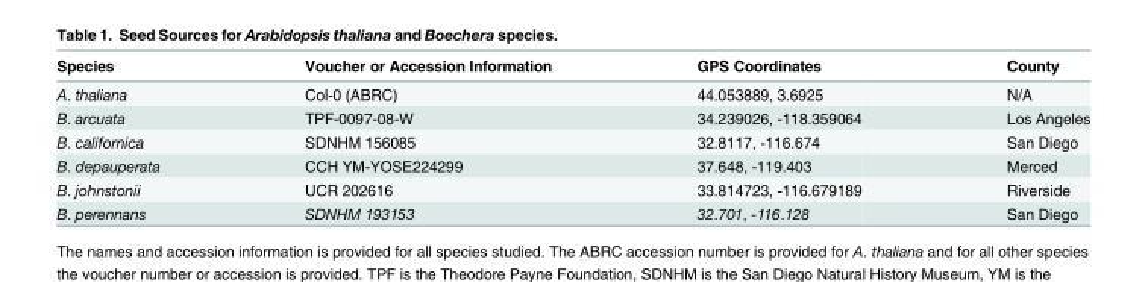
<table><thead><tr><td>Species</td><td>Voucher or Accession Information</td><td>GPS Coordinates</td><td>County</td></tr></thead><tbody><tr><td>A. thaliana</td><td>Col-0 (ABRC)</td><td>44.053889, 3.6925</td><td>N/A</td></tr><tr><td>B. arcuata</td><td>TPF-0097-08-W</td><td>34.239026, -118.359064</td><td>Los Angeles</td></tr><tr><td>B. californica</td><td>SDNHM 156085</td><td>32.8117, -116.674</td><td>San Diego</td></tr><tr><td>B. depauperata</td><td>CCH YM-YOSE224299</td><td>37.648, -119.403</td><td>Merced</td></tr><tr><td>B. johnstonii</td><td>UCR 202616</td><td>33.814723, -116.679189</td><td>Riverside</td></tr><tr><td>B. perennans</td><td>SDNHM 193153</td><td>32.701, -116.128</td><td>San Diego</td></tr></tbody></table>